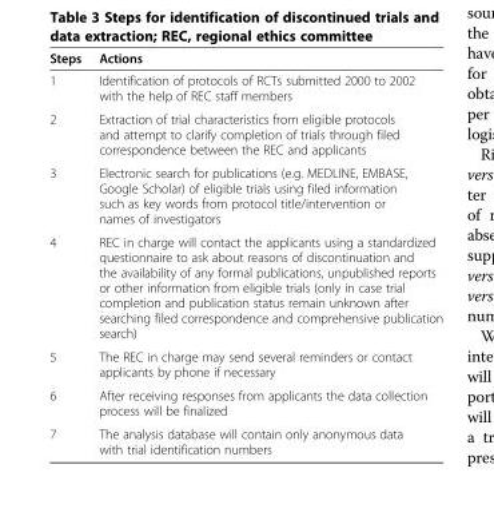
<table><thead><tr><td>Steps</td><td>Actions</td></tr></thead><tbody><tr><td>1</td><td>Identification of protocols of RCTs submitted 2000 to 2002 with the help of REC staff members</td></tr><tr><td>2</td><td>Extraction of trial characteristics from eligible protocols and attempt to clarify completion of trials through filed correspondence between the REC and applicants</td></tr><tr><td>3</td><td>Electronic search for publications (e.g. MEDLINE, EMBASE, Google Scholar) of eligible trials using filed information such as key words from protocol title/intervention or names of investigators</td></tr><tr><td>4</td><td>REC in charge will contact the applicants using a standardized questionnaire to ask about reasons of discontinuation and the availability of any formal publications, unpublished reports or other information from eligible trials (only in case trial completion and publication status remain unknown after searching filed correspondence and comprehensive publication search)</td></tr><tr><td>5</td><td>The REC in charge may send several reminders or contact applicants by phone if necessary</td></tr><tr><td>6</td><td>After receiving responses from applicants the data collection process will be finalized</td></tr><tr><td>7</td><td>The analysis database will contain only anonymous data with trial identification numbers</td></tr></tbody></table>